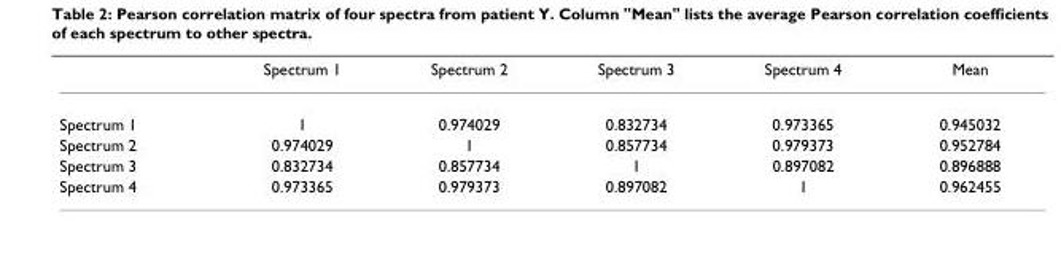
<table><thead><tr><td></td><td>Spectrum 1</td><td>Spectrum 2</td><td>Spectrum 3</td><td>Spectrum 4</td><td>Mean</td></tr></thead><tbody><tr><td>Spectrum 1</td><td>1</td><td>0.974029</td><td>0.832734</td><td>0.973365</td><td>0.945032</td></tr><tr><td>Spectrum 2</td><td>0.974029</td><td>1</td><td>0.857734</td><td>0.979373</td><td>0.952784</td></tr><tr><td>Spectrum 3</td><td>0.832734</td><td>0.857734</td><td>1</td><td>0.897082</td><td>0.896888</td></tr><tr><td>Spectrum 4</td><td>0.973365</td><td>0.979373</td><td>0.897082</td><td>1</td><td>0.962455</td></tr></tbody></table>